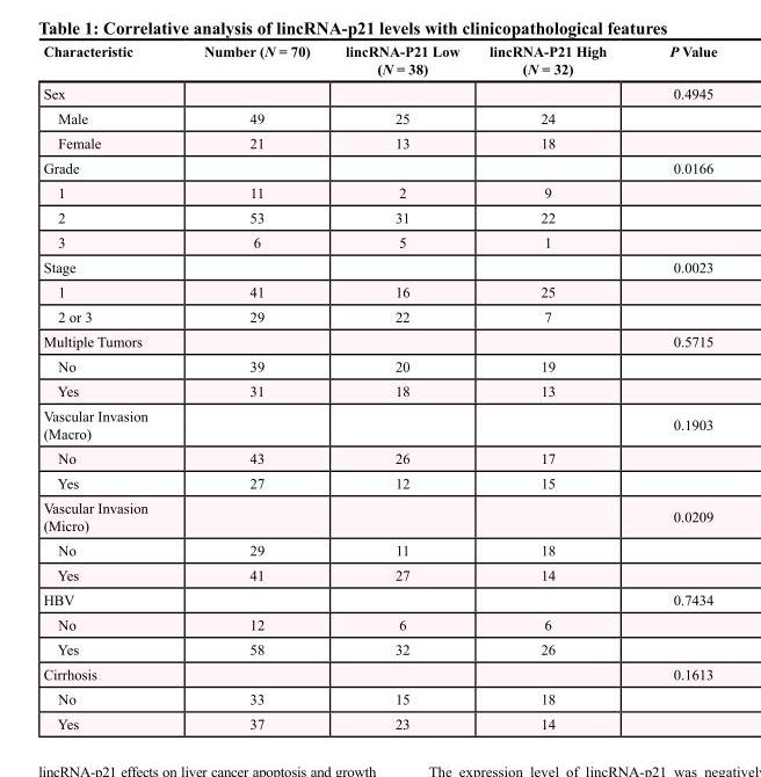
<table><thead><tr><td>Characteristic</td><td>Number (N = 70)</td><td>lincRNA-P21 Low (N = 38)</td><td>lincRNA-P21 High (N = 32)</td><td>P Value</td></tr></thead><tbody><tr><td>Sex</td><td></td><td></td><td></td><td>0.4945</td></tr><tr><td>Male</td><td>49</td><td>25</td><td>24</td><td></td></tr><tr><td>Female</td><td>21</td><td>13</td><td>18</td><td></td></tr><tr><td>Grade</td><td></td><td></td><td></td><td>0.0166</td></tr><tr><td>1</td><td>11</td><td>2</td><td>9</td><td></td></tr><tr><td>2</td><td>53</td><td>31</td><td>22</td><td></td></tr><tr><td>3</td><td>6</td><td>5</td><td>1</td><td></td></tr><tr><td>Stage</td><td></td><td></td><td></td><td>0.0023</td></tr><tr><td>1</td><td>41</td><td>16</td><td>25</td><td></td></tr><tr><td>2 or 3</td><td>29</td><td>22</td><td>7</td><td></td></tr><tr><td>Multiple Tumors</td><td></td><td></td><td></td><td>0.5715</td></tr><tr><td>No</td><td>39</td><td>20</td><td>19</td><td></td></tr><tr><td>Yes</td><td>31</td><td>18</td><td>13</td><td></td></tr><tr><td>Vascular Invasion (Macro)</td><td></td><td></td><td></td><td>0.1903</td></tr><tr><td>No</td><td>43</td><td>26</td><td>17</td><td></td></tr><tr><td>Yes</td><td>27</td><td>12</td><td>15</td><td></td></tr><tr><td>Vascular Invasion (Micro)</td><td></td><td></td><td></td><td>0.0209</td></tr><tr><td>No</td><td>29</td><td>11</td><td>18</td><td></td></tr><tr><td>Yes</td><td>41</td><td>27</td><td>14</td><td></td></tr><tr><td>HBV</td><td></td><td></td><td></td><td>0.7434</td></tr><tr><td>No</td><td>12</td><td>6</td><td>6</td><td></td></tr><tr><td>Yes</td><td>58</td><td>32</td><td>26</td><td></td></tr><tr><td>Cirrhosis</td><td></td><td></td><td></td><td>0.1613</td></tr><tr><td>No</td><td>33</td><td>15</td><td>18</td><td></td></tr><tr><td>Yes</td><td>37</td><td>23</td><td>14</td><td></td></tr></tbody></table>